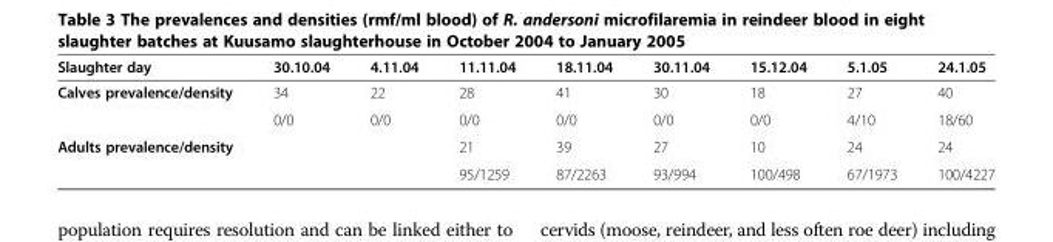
<table><thead><tr><td>Slaughter day</td><td>30.10.04</td><td>4.11.04</td><td>11.11.04</td><td>18.11.04</td><td>30.11.04</td><td>15.12.04</td><td>5.1.05</td><td>24.1.05</td></tr></thead><tbody><tr><td rowspan="2">Calves prevalence/density</td><td>34</td><td>22</td><td>28</td><td>41</td><td>30</td><td>18</td><td>27</td><td>40</td></tr><tr><td>0/0</td><td>0/0</td><td>0/0</td><td>0/0</td><td>0/0</td><td>0/0</td><td>4/10</td><td>18/60</td></tr><tr><td rowspan="2">Adults prevalence/density</td><td rowspan="2"></td><td rowspan="2"></td><td>21</td><td>39</td><td>27</td><td>10</td><td>24</td><td>24</td></tr><tr><td>95/1259</td><td>87/2263</td><td>93/994</td><td>100/498</td><td>67/1973</td><td>100/4227</td></tr></tbody></table>